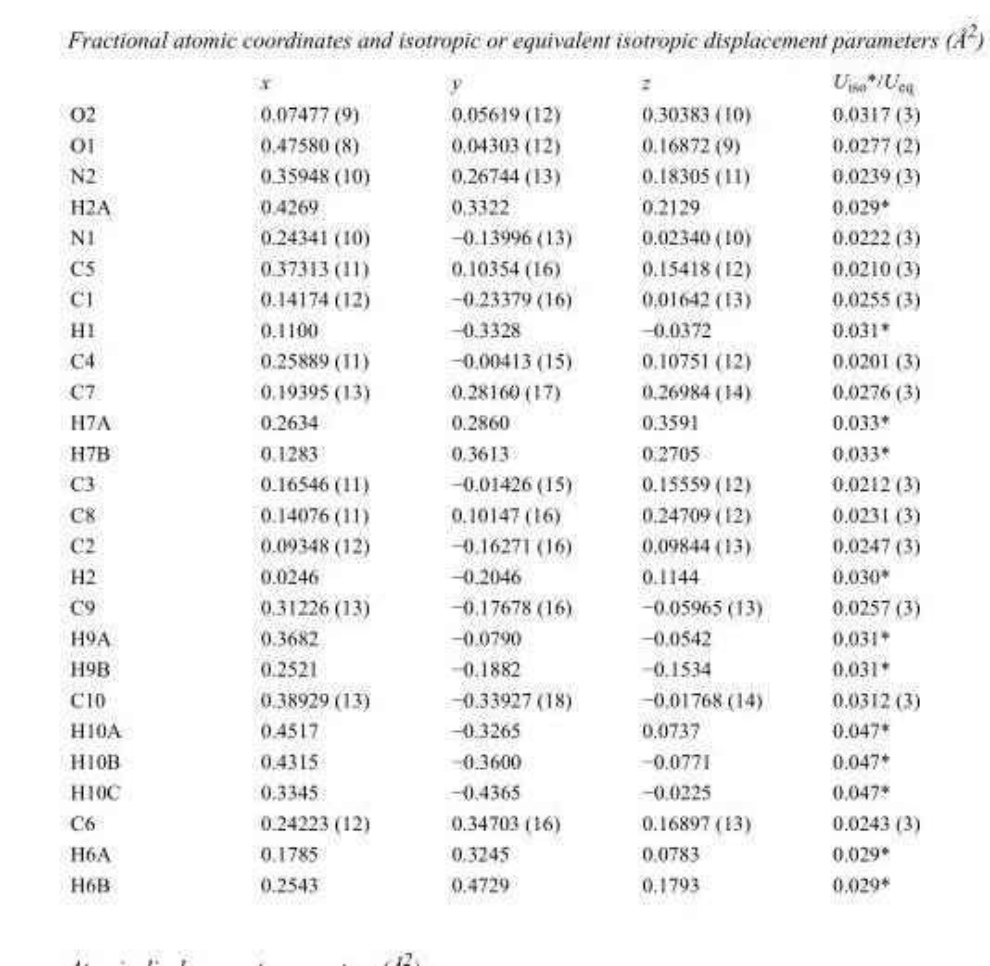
<table><thead><tr><td></td><td>x</td><td>y</td><td>z</td><td>U<sub>iso</sub>*/U<sub>eq</sub></td></tr></thead><tbody><tr><td>O2</td><td>0.07477 (9)</td><td>0.05619 (12)</td><td>0.30383 (10)</td><td>0.0317 (3)</td></tr><tr><td>O1</td><td>0.47580 (8)</td><td>0.04303 (12)</td><td>0.16872 (9)</td><td>0.0277 (2)</td></tr><tr><td>N2</td><td>0.35948 (10)</td><td>0.26744 (13)</td><td>0.18305 (11)</td><td>0.0239 (3)</td></tr><tr><td>H2A</td><td>0.4269</td><td>0.3322</td><td>0.2129</td><td>0.029*</td></tr><tr><td>N1</td><td>0.24341 (10)</td><td>−0.13996 (13)</td><td>0.02340 (10)</td><td>0.0222 (3)</td></tr><tr><td>C5</td><td>0.37313 (11)</td><td>0.10354 (16)</td><td>0.15418 (12)</td><td>0.0210 (3)</td></tr><tr><td>C1</td><td>0.14174 (12)</td><td>−0.23379 (16)</td><td>0.01642 (13)</td><td>0.0255 (3)</td></tr><tr><td>H1</td><td>0.1100</td><td>−0.3328</td><td>−0.0372</td><td>0.031*</td></tr><tr><td>C4</td><td>0.25889 (11)</td><td>−0.00413 (15)</td><td>0.10751 (12)</td><td>0.0201 (3)</td></tr><tr><td>C7</td><td>0.19395 (13)</td><td>0.28160 (17)</td><td>0.26984 (14)</td><td>0.0276 (3)</td></tr><tr><td>H7A</td><td>0.2634</td><td>0.2860</td><td>0.3591</td><td>0.033*</td></tr><tr><td>H7B</td><td>0.1283</td><td>0.3613</td><td>0.2705</td><td>0.033*</td></tr><tr><td>C3</td><td>0.16546 (11)</td><td>−0.01426 (15)</td><td>0.15559 (12)</td><td>0.0212 (3)</td></tr><tr><td>C8</td><td>0.14076 (11)</td><td>0.10147 (16)</td><td>0.24709 (12)</td><td>0.0231 (3)</td></tr><tr><td>C2</td><td>0.09348 (12)</td><td>−0.16271 (16)</td><td>0.09844 (13)</td><td>0.0247 (3)</td></tr><tr><td>H2</td><td>0.0246</td><td>−0.2046</td><td>0.1144</td><td>0.030*</td></tr><tr><td>C9</td><td>0.31226 (13)</td><td>−0.17678 (16)</td><td>−0.05965 (13)</td><td>0.0257 (3)</td></tr><tr><td>H9A</td><td>0.3682</td><td>−0.0790</td><td>−0.0542</td><td>0.031*</td></tr><tr><td>H9B</td><td>0.2521</td><td>−0.1882</td><td>−0.1534</td><td>0.031*</td></tr><tr><td>C10</td><td>0.38929 (13)</td><td>−0.33927 (18)</td><td>−0.01768 (14)</td><td>0.0312 (3)</td></tr><tr><td>H10A</td><td>0.4517</td><td>−0.3265</td><td>0.0737</td><td>0.047*</td></tr><tr><td>H10B</td><td>0.4315</td><td>−0.3600</td><td>−0.0771</td><td>0.047*</td></tr><tr><td>H10C</td><td>0.3345</td><td>−0.4365</td><td>−0.0225</td><td>0.047*</td></tr><tr><td>C6</td><td>0.24223 (12)</td><td>0.34703 (16)</td><td>0.16897 (13)</td><td>0.0243 (3)</td></tr><tr><td>H6A</td><td>0.1785</td><td>0.3245</td><td>0.0783</td><td>0.029*</td></tr><tr><td>H6B</td><td>0.2543</td><td>0.4729</td><td>0.1793</td><td>0.029*</td></tr></tbody></table>